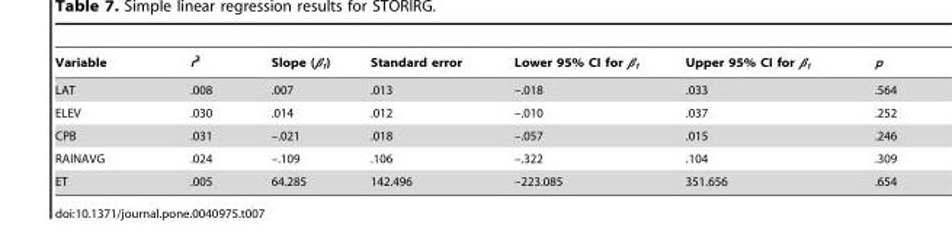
<table><thead><tr><td>Variable</td><td>r<sup>2</sup></td><td>Slope (β<sub>1</sub>)</td><td>Standard error</td><td>Lower 95% CI for β<sub>1</sub></td><td>Upper 95% CI for β<sub>1</sub></td><td>p</td></tr></thead><tbody><tr><td>LAT</td><td>.008</td><td>.007</td><td>.013</td><td>–.018</td><td>.033</td><td>.564</td></tr><tr><td>ELEV</td><td>.030</td><td>.014</td><td>.012</td><td>–.010</td><td>.037</td><td>.252</td></tr><tr><td>CPB</td><td>.031</td><td>–.021</td><td>.018</td><td>–.057</td><td>.015</td><td>.246</td></tr><tr><td>RAINAVG</td><td>.024</td><td>–.109</td><td>.106</td><td>–.322</td><td>.104</td><td>.309</td></tr><tr><td>ET</td><td>.005</td><td>64.285</td><td>142.496</td><td>–223.085</td><td>351.656</td><td>.654</td></tr></tbody></table>